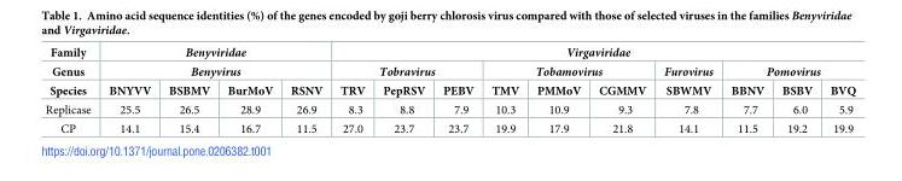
<table><thead><tr><td rowspan="3">Family Genus Species</td><td rowspan="2" colspan="4">Benyviridae Benyvirus</td><td colspan="10">Virgaviridae</td></tr><tr><td colspan="3">Tobravirus</td><td colspan="3">Tobamovirus</td><td rowspan="2">Furovirus SBWMV</td><td colspan="3">Pomovirus</td></tr><tr><td>BNYVV</td><td>BSBMV</td><td>BurMoV</td><td>RSNV</td><td>TRV</td><td>PepRSV</td><td>PEBV</td><td>TMV</td><td>PMMoV</td><td>CGMMV</td><td>BBNV</td><td>BSBV</td><td>BVQ</td></tr></thead><tbody><tr><td>Replicase</td><td>25.5</td><td>26.5</td><td>28.9</td><td>26.9</td><td>8.3</td><td>8.8</td><td>7.9</td><td>10.3</td><td>10.9</td><td>9.3</td><td>7.8</td><td>7.7</td><td>6.0</td><td>5.9</td></tr><tr><td>CP</td><td>14.1</td><td>15.4</td><td>16.7</td><td>11.5</td><td>27.0</td><td>23.7</td><td>23.7</td><td>19.9</td><td>17.9</td><td>21.8</td><td>14.1</td><td>11.5</td><td>19.2</td><td>19.9</td></tr></tbody></table>